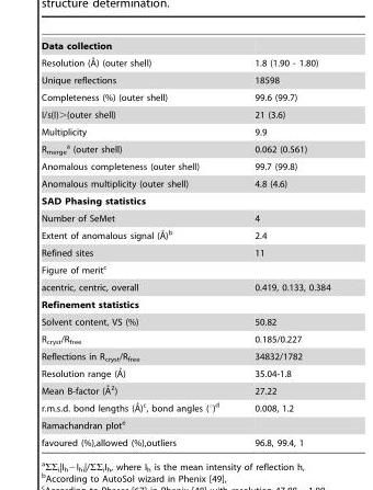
<table><tbody><tr><td colspan="2">Data collection</td></tr><tr><td>Resolution (A˚) (outer shell)</td><td>1.8 (1.90 - 1.80)</td></tr><tr><td>Unique reflections</td><td>18598</td></tr><tr><td>Completeness (%) (outer shell)</td><td>99.6 (99.7)</td></tr><tr><td>I/s(I)&gt;(outer shell)</td><td>21 (3.6)</td></tr><tr><td>Multiplicity</td><td>9.9</td></tr><tr><td>R<sub>merge</sub> a (outer shell)</td><td>0.062 (0.561)</td></tr><tr><td>Anomalous completeness (outer shell)</td><td>99.7 (99.8)</td></tr><tr><td>Anomalous multiplicity (outer shell)</td><td>4.8 (4.6)</td></tr><tr><td colspan="2">SAD Phasing statistics</td></tr><tr><td>Number of SeMet</td><td>4</td></tr><tr><td>Extent of anomalous signal (A˚)b</td><td>2.4</td></tr><tr><td>Refined sites</td><td>11</td></tr><tr><td colspan="2">Figure of merit<sup>c</sup></td></tr><tr><td>acentric, centric, overall</td><td>0.419, 0.133, 0.384</td></tr><tr><td colspan="2">Refinement statistics</td></tr><tr><td>Solvent content, VS (%)</td><td>50.82</td></tr><tr><td>R<sub>cryst</sub>/R<sub>free</sub></td><td>0.185/0.227</td></tr><tr><td>Reflections in R<sub>cryst</sub>/R<sub>free</sub></td><td>34832/1782</td></tr><tr><td>Resolution range (A˚)</td><td>35.04-1.8</td></tr><tr><td>Mean B-factor (A˚ 2)</td><td>27.22</td></tr><tr><td>r.m.s.d. bond lengths (A˚)c, bond angles (u)d</td><td>0.008, 1.2</td></tr><tr><td colspan="2">Ramachandran plot<sup>e</sup></td></tr><tr><td>favoured (%),allowed (%),outliers</td><td>96.8, 99.4, 1</td></tr></tbody></table>